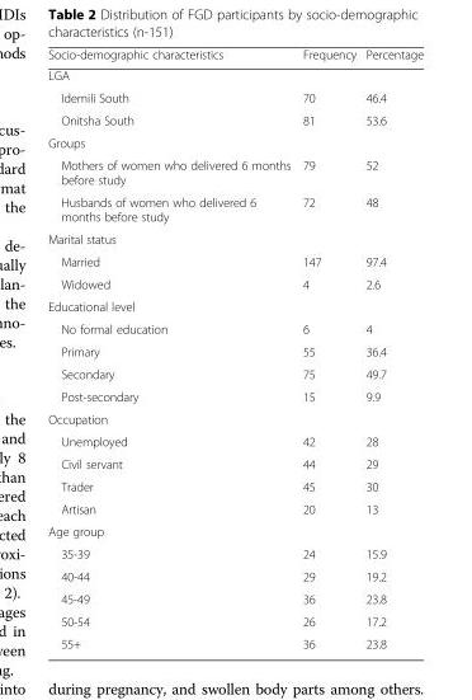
<table><thead><tr><td>Socio-demographic characteristics</td><td>Frequency</td><td>Percentage</td></tr></thead><tbody><tr><td colspan="3">LGA</td></tr><tr><td>Idemili South</td><td>70</td><td>46.4</td></tr><tr><td>Onitsha South</td><td>81</td><td>53.6</td></tr><tr><td colspan="3">Groups</td></tr><tr><td>Mothers of women who delivered 6 months before study</td><td>79</td><td>52</td></tr><tr><td>Husbands of women who delivered 6 months before study</td><td>72</td><td>48</td></tr><tr><td colspan="3">Marital status</td></tr><tr><td>Married</td><td>147</td><td>97.4</td></tr><tr><td>Widowed</td><td>4</td><td>2.6</td></tr><tr><td colspan="3">Educational level</td></tr><tr><td>No formal education</td><td>6</td><td>4</td></tr><tr><td>Primary</td><td>55</td><td>36.4</td></tr><tr><td>Secondary</td><td>75</td><td>49.7</td></tr><tr><td>Post-secondary</td><td>15</td><td>9.9</td></tr><tr><td colspan="3">Occupation</td></tr><tr><td>Unemployed</td><td>42</td><td>28</td></tr><tr><td>Civil servant</td><td>44</td><td>29</td></tr><tr><td>Trader</td><td>45</td><td>30</td></tr><tr><td>Artisan</td><td>20</td><td>13</td></tr><tr><td colspan="3">Age group</td></tr><tr><td>35-39</td><td>24</td><td>15.9</td></tr><tr><td>40-44</td><td>29</td><td>19.2</td></tr><tr><td>45-49</td><td>36</td><td>23.8</td></tr><tr><td>50-54</td><td>26</td><td>17.2</td></tr><tr><td>55+</td><td>36</td><td>23.8</td></tr></tbody></table>